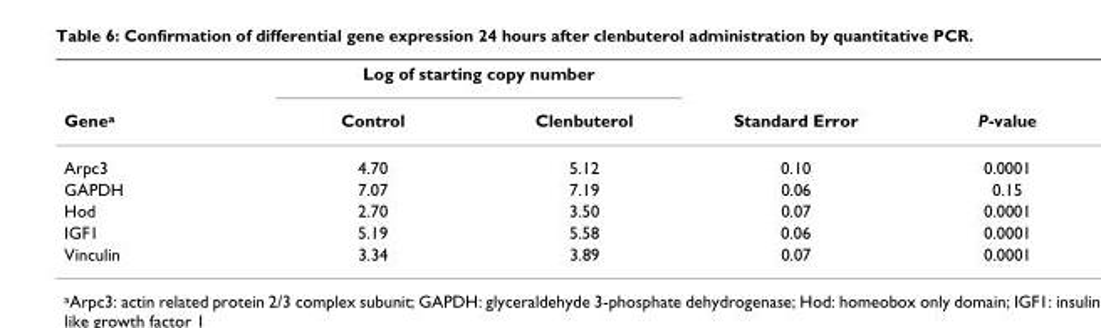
<table><thead><tr><td rowspan="2">Genea</td><td colspan="2">Log of starting copy number</td><td rowspan="2">Standard Error</td><td rowspan="2">P-value</td></tr><tr><td>Control</td><td>Clenbuterol</td></tr></thead><tbody><tr><td>Arpc3</td><td>4.70</td><td>5.12</td><td>0.10</td><td>0.0001</td></tr><tr><td>GAPDH</td><td>7.07</td><td>7.19</td><td>0.06</td><td>0.15</td></tr><tr><td>Hod</td><td>2.70</td><td>3.50</td><td>0.07</td><td>0.0001</td></tr><tr><td>IGF1</td><td>5.19</td><td>5.58</td><td>0.06</td><td>0.0001</td></tr><tr><td>Vinculin</td><td>3.34</td><td>3.89</td><td>0.07</td><td>0.0001</td></tr></tbody></table>